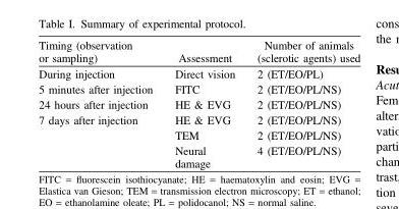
<table><thead><tr><td>Timing (observation or sampling)</td><td>Assessment</td><td>Number of animals (sclerotic agents) used</td></tr></thead><tbody><tr><td>During injection</td><td>Direct vision</td><td>2 (ET/EO/PL)</td></tr><tr><td>5 minutes after injection</td><td>FITC</td><td>2 (ET/EO/PL/NS)</td></tr><tr><td>24 hours after injection</td><td>HE &amp; EVG</td><td>2 (ET/EO/PL/NS)</td></tr><tr><td rowspan="3">7 days after injection</td><td>HE &amp; EVG</td><td>2 (ET/EO/PL/NS)</td></tr><tr><td>TEM</td><td>2 (ET/EO/PL/NS)</td></tr><tr><td>Neural damage</td><td>4 (ET/EO/PL/NS)</td></tr></tbody></table>